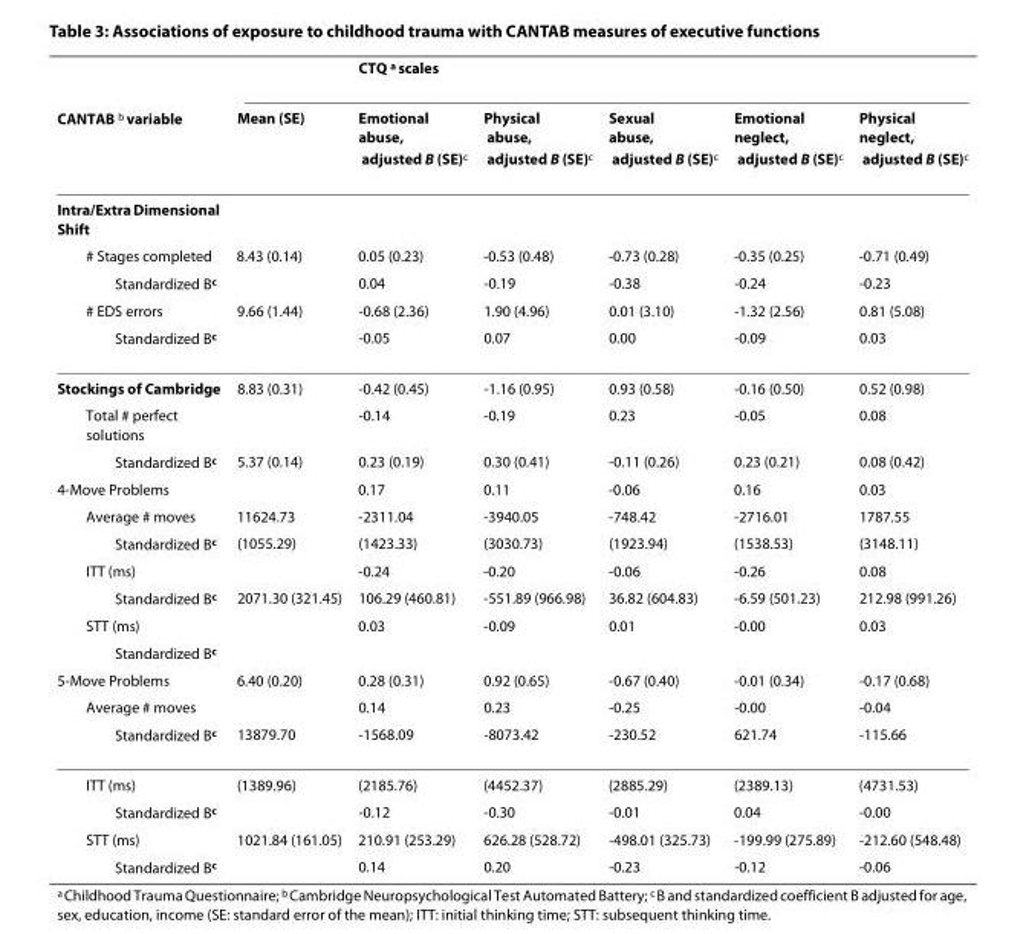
<table><thead><tr><td rowspan="2">CANTAB <sup>b</sup> variable</td><td rowspan="2">Mean (SE)</td><td rowspan="2">CTQ <sup>a</sup> scales Emotional abuse, adjusted B (SE)<sup>c</sup></td><td rowspan="2">Physical abuse, adjusted B (SE)<sup>c</sup></td><td rowspan="2">Sexual abuse, adjusted B (SE)<sup>c</sup></td><td rowspan="2">Emotional neglect, adjusted B (SE)<sup>c</sup></td><td rowspan="2">Physical neglect, adjusted B (SE)<sup>c</sup></td></tr><tr></tr></thead><tbody><tr><td colspan="7">Intra/Extra Dimensional Shift</td></tr><tr><td># Stages completed</td><td>8.43 (0.14)</td><td>0.05 (0.23)</td><td>-0.53 (0.48)</td><td>-0.73 (0.28)</td><td>-0.35 (0.25)</td><td>-0.71 (0.49)</td></tr><tr><td>Standardized B<sup>c</sup></td><td></td><td>0.04</td><td>-0.19</td><td>-0.38</td><td>-0.24</td><td>-0.23</td></tr><tr><td># EDS errors</td><td>9.66 (1.44)</td><td>-0.68 (2.36)</td><td>1.90 (4.96)</td><td>0.01 (3.10)</td><td>-1.32 (2.56)</td><td>0.81 (5.08)</td></tr><tr><td>Standardized B<sup>c</sup></td><td></td><td>-0.05</td><td>0.07</td><td>0.00</td><td>-0.09</td><td>0.03</td></tr><tr><td>Stockings of Cambridge</td><td>8.83 (0.31)</td><td>-0.42 (0.45)</td><td>-1.16 (0.95)</td><td>0.93 (0.58)</td><td>-0.16 (0.50)</td><td>0.52 (0.98)</td></tr><tr><td>Total # perfect solutions</td><td></td><td>-0.14</td><td>-0.19</td><td>0.23</td><td>-0.05</td><td>0.08</td></tr><tr><td>Standardized B<sup>c</sup></td><td>5.37 (0.14)</td><td>0.23 (0.19)</td><td>0.30 (0.41)</td><td>-0.11 (0.26)</td><td>0.23 (0.21)</td><td>0.08 (0.42)</td></tr><tr><td>4-Move Problems</td><td></td><td>0.17</td><td>0.11</td><td>-0.06</td><td>0.16</td><td>0.03</td></tr><tr><td>Average # moves</td><td>11624.73</td><td>-2311.04</td><td>-3940.05</td><td>-748.42</td><td>-2716.01</td><td>1787.55</td></tr><tr><td>Standardized B<sup>c</sup></td><td>(1055.29)</td><td>(1423.33)</td><td>(3030.73)</td><td>(1923.94)</td><td>(1538.53)</td><td>(3148.11)</td></tr><tr><td>ITT (ms)</td><td></td><td>-0.24</td><td>-0.20</td><td>-0.06</td><td>-0.26</td><td>0.08</td></tr><tr><td>Standardized B<sup>c</sup></td><td>2071.30 (321.45)</td><td>106.29 (460.81)</td><td>-551.89 (966.98)</td><td>36.82 (604.83)</td><td>-6.59 (501.23)</td><td>212.98 (991.26)</td></tr><tr><td>STT (ms)</td><td></td><td>0.03</td><td>-0.09</td><td>0.01</td><td>-0.00</td><td>0.03</td></tr><tr><td colspan="7">Standardized B<sup>c</sup></td></tr><tr><td>5-Move Problems</td><td>6.40 (0.20)</td><td>0.28 (0.31)</td><td>0.92 (0.65)</td><td>-0.67 (0.40)</td><td>-0.01 (0.34)</td><td>-0.17 (0.68)</td></tr><tr><td>Average # moves</td><td></td><td>0.14</td><td>0.23</td><td>-0.25</td><td>-0.00</td><td>-0.04</td></tr><tr><td>Standardized B<sup>c</sup></td><td>13879.70</td><td>-1568.09</td><td>-8073.42</td><td>-230.52</td><td>621.74</td><td>-115.66</td></tr><tr><td>ITT (ms)</td><td>(1389.96)</td><td>(2185.76)</td><td>(4452.37)</td><td>(2885.29)</td><td>(2389.13)</td><td>(4731.53)</td></tr><tr><td>Standardized B<sup>c</sup></td><td></td><td>-0.12</td><td>-0.30</td><td>-0.01</td><td>0.04</td><td>-0.00</td></tr><tr><td>STT (ms)</td><td>1021.84 (161.05)</td><td>210.91 (253.29)</td><td>626.28 (528.72)</td><td>-498.01 (325.73)</td><td>-199.99 (275.89)</td><td>-212.60 (548.48)</td></tr><tr><td>Standardized B<sup>c</sup></td><td></td><td>0.14</td><td>0.20</td><td>-0.23</td><td>-0.12</td><td>-0.06</td></tr></tbody></table>